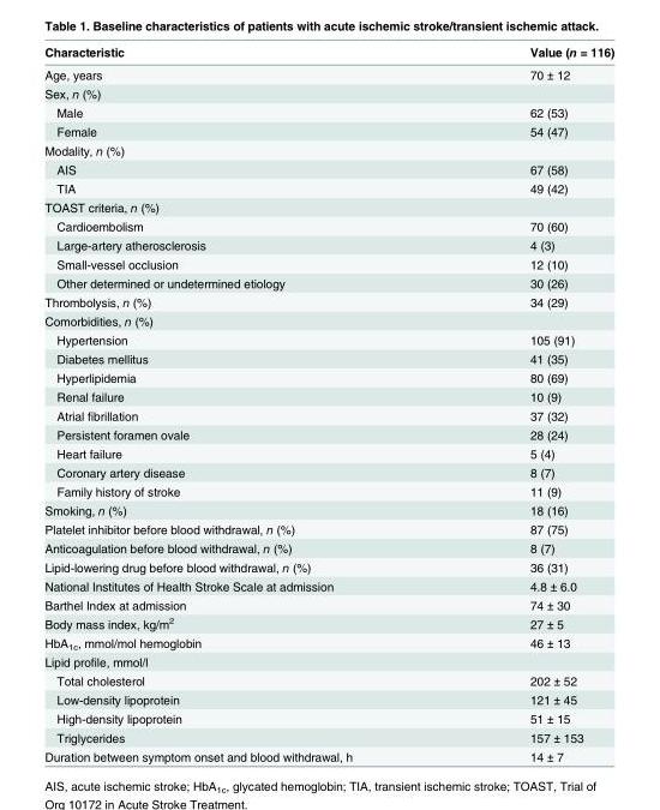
<table><thead><tr><td>Characteristic</td><td>Value (n = 116)</td></tr></thead><tbody><tr><td>Age, years</td><td>70 ± 12</td></tr><tr><td colspan="2">Sex, n (%)</td></tr><tr><td>Male</td><td>62 (53)</td></tr><tr><td>Female</td><td>54 (47)</td></tr><tr><td colspan="2">Modality, n (%)</td></tr><tr><td>AIS</td><td>67 (58)</td></tr><tr><td>TIA</td><td>49 (42)</td></tr><tr><td colspan="2">TOAST criteria, n (%)</td></tr><tr><td>Cardioembolism</td><td>70 (60)</td></tr><tr><td>Large-artery atherosclerosis</td><td>4 (3)</td></tr><tr><td>Small-vessel occlusion</td><td>12 (10)</td></tr><tr><td>Other determined or undetermined etiology</td><td>30 (26)</td></tr><tr><td>Thrombolysis, n (%)</td><td>34 (29)</td></tr><tr><td colspan="2">Comorbidities, n (%)</td></tr><tr><td>Hypertension</td><td>105 (91)</td></tr><tr><td>Diabetes mellitus</td><td>41 (35)</td></tr><tr><td>Hyperlipidemia</td><td>80 (69)</td></tr><tr><td>Renal failure</td><td>10 (9)</td></tr><tr><td>Atrial fibrillation</td><td>37 (32)</td></tr><tr><td>Persistent foramen ovale</td><td>28 (24)</td></tr><tr><td>Heart failure</td><td>5 (4)</td></tr><tr><td>Coronary artery disease</td><td>8 (7)</td></tr><tr><td>Family history of stroke</td><td>11 (9)</td></tr><tr><td>Smoking, n (%)</td><td>18 (16)</td></tr><tr><td>Platelet inhibitor before blood withdrawal, n (%)</td><td>87 (75)</td></tr><tr><td>Anticoagulation before blood withdrawal, n (%)</td><td>8 (7)</td></tr><tr><td>Lipid-lowering drug before blood withdrawal, n (%)</td><td>36 (31)</td></tr><tr><td>National Institutes of Health Stroke Scale at admission</td><td>4.8 ± 6.0</td></tr><tr><td>Barthel Index at admission</td><td>74 ± 30</td></tr><tr><td>Body mass index, kg/m<sup>2</sup></td><td>27 ± 5</td></tr><tr><td>HbA<sub>1c</sub>, mmol/mol hemoglobin</td><td>46 ± 13</td></tr><tr><td colspan="2">Lipid profile, mmol/l</td></tr><tr><td>Total cholesterol</td><td>202 ± 52</td></tr><tr><td>Low-density lipoprotein</td><td>121 ± 45</td></tr><tr><td>High-density lipoprotein</td><td>51 ± 15</td></tr><tr><td>Triglycerides</td><td>157 ± 153</td></tr><tr><td>Duration between symptom onset and blood withdrawal, h</td><td>14 ± 7</td></tr></tbody></table>